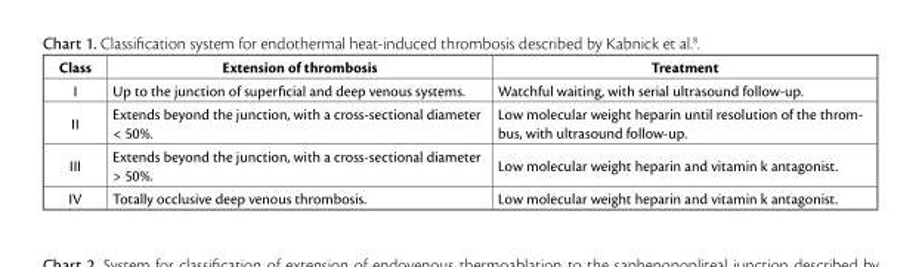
<table><thead><tr><td>Class</td><td>Extension of thrombosis</td><td>Treatment</td></tr></thead><tbody><tr><td>I</td><td>Up to the junction of superficial and deep venous systems.</td><td>Watchful waiting, with serial ultrasound follow-up.</td></tr><tr><td>II</td><td>Extends beyond the junction, with a cross-sectional diameter &lt; 50%.</td><td>Low molecular weight heparin until resolution of the throm- bus, with ultrasound follow-up.</td></tr><tr><td>III</td><td>Extends beyond the junction, with a cross-sectional diameter &gt; 50%.</td><td>Low molecular weight heparin and vitamin k antagonist.</td></tr><tr><td>IV</td><td>Totally occlusive deep venous thrombosis.</td><td>Low molecular weight heparin and vitamin k antagonist.</td></tr></tbody></table>